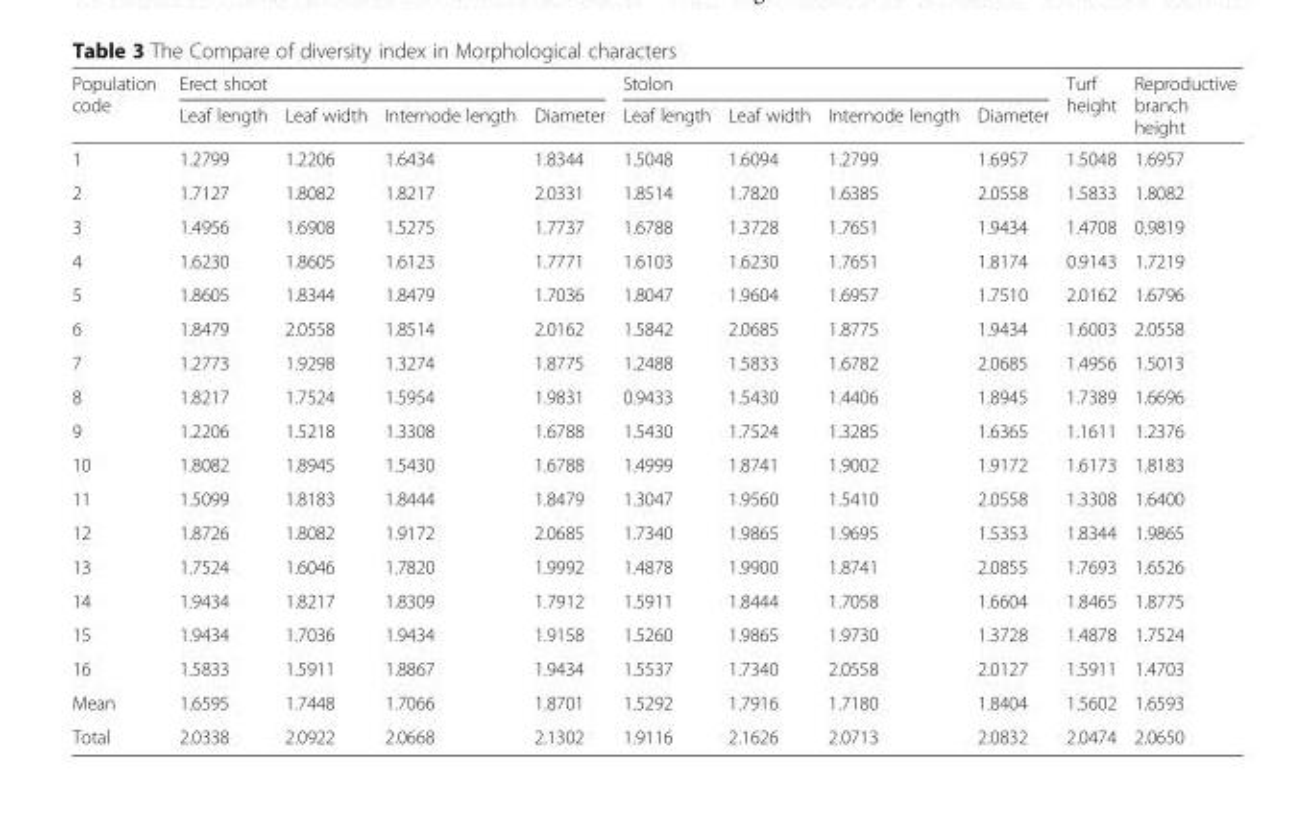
<table><thead><tr><td rowspan="2">Population code</td><td colspan="4">Erect shoot</td><td colspan="4">Stolon</td><td rowspan="2">Turf height</td><td rowspan="2">Reproductive branch height</td></tr><tr><td>Leaf length</td><td>Leaf width</td><td>Internode length</td><td>Diameter</td><td>Leaf length</td><td>Leaf width</td><td>Internode length</td><td>Diameter</td></tr></thead><tbody><tr><td>1</td><td>1.2799</td><td>1.2206</td><td>1.6434</td><td>1.8344</td><td>1.5048</td><td>1.6094</td><td>1.2799</td><td>1.6957</td><td>1.5048</td><td>1.6957</td></tr><tr><td>2</td><td>1.7127</td><td>1.8082</td><td>1.8217</td><td>2.0331</td><td>1.8514</td><td>1.7820</td><td>1.6385</td><td>2.0558</td><td>1.5833</td><td>1.8082</td></tr><tr><td>3</td><td>1.4956</td><td>1.6908</td><td>1.5275</td><td>1.7737</td><td>1.6788</td><td>1.3728</td><td>1.7651</td><td>1.9434</td><td>1.4708</td><td>0.9819</td></tr><tr><td>4</td><td>1.6230</td><td>1.8605</td><td>1.6123</td><td>1.7771</td><td>1.6103</td><td>1.6230</td><td>1.7651</td><td>1.8174</td><td>0.9143</td><td>1.7219</td></tr><tr><td>5</td><td>1.8605</td><td>1.8344</td><td>1.8479</td><td>1.7036</td><td>1.8047</td><td>1.9604</td><td>1.6957</td><td>1.7510</td><td>2.0162</td><td>1.6796</td></tr><tr><td>6</td><td>1.8479</td><td>2.0558</td><td>1.8514</td><td>2.0162</td><td>1.5842</td><td>2.0685</td><td>1.8775</td><td>1.9434</td><td>1.6003</td><td>2.0558</td></tr><tr><td>7</td><td>1.2773</td><td>1.9298</td><td>1.3274</td><td>1.8775</td><td>1.2488</td><td>1.5833</td><td>1.6782</td><td>2.0685</td><td>1.4956</td><td>1.5013</td></tr><tr><td>8</td><td>1.8217</td><td>1.7524</td><td>1.5954</td><td>1.9831</td><td>0.9433</td><td>1.5430</td><td>1.4406</td><td>1.8945</td><td>1.7389</td><td>1.6696</td></tr><tr><td>9</td><td>1.2206</td><td>1.5218</td><td>1.3308</td><td>1.6788</td><td>1.5430</td><td>1.7524</td><td>1.3285</td><td>1.6365</td><td>1.1611</td><td>1.2376</td></tr><tr><td>10</td><td>1.8082</td><td>1.8945</td><td>1.5430</td><td>1.6788</td><td>1.4999</td><td>1.8741</td><td>1.9002</td><td>1.9172</td><td>1.6173</td><td>1.8183</td></tr><tr><td>11</td><td>1.5099</td><td>1.8183</td><td>1.8444</td><td>1.8479</td><td>1.3047</td><td>1.9560</td><td>1.5410</td><td>2.0558</td><td>1.3308</td><td>1.6400</td></tr><tr><td>12</td><td>1.8726</td><td>1.8082</td><td>1.9172</td><td>2.0685</td><td>1.7340</td><td>1.9865</td><td>1.9695</td><td>1.5353</td><td>1.8344</td><td>1.9865</td></tr><tr><td>13</td><td>1.7524</td><td>1.6046</td><td>1.7820</td><td>1.9992</td><td>1.4878</td><td>1.9900</td><td>1.8741</td><td>2.0855</td><td>1.7693</td><td>1.6526</td></tr><tr><td>14</td><td>1.9434</td><td>1.8217</td><td>1.8309</td><td>1.7912</td><td>1.5911</td><td>1.8444</td><td>1.7058</td><td>1.6604</td><td>1.8465</td><td>1.8775</td></tr><tr><td>15</td><td>1.9434</td><td>1.7036</td><td>1.9434</td><td>1.9158</td><td>1.5260</td><td>1.9865</td><td>1.9730</td><td>1.3728</td><td>1.4878</td><td>1.7524</td></tr><tr><td>16</td><td>1.5833</td><td>1.5911</td><td>1.8867</td><td>1.9434</td><td>1.5537</td><td>1.7340</td><td>2.0558</td><td>2.0127</td><td>1.5911</td><td>1.4703</td></tr><tr><td>Mean</td><td>1.6595</td><td>1.7448</td><td>1.7066</td><td>1.8701</td><td>1.5292</td><td>1.7916</td><td>1.7180</td><td>1.8404</td><td>1.5602</td><td>1.6593</td></tr><tr><td>Total</td><td>2.0338</td><td>2.0922</td><td>2.0668</td><td>2.1302</td><td>1.9116</td><td>2.1626</td><td>2.0713</td><td>2.0832</td><td>2.0474</td><td>2.0650</td></tr></tbody></table>